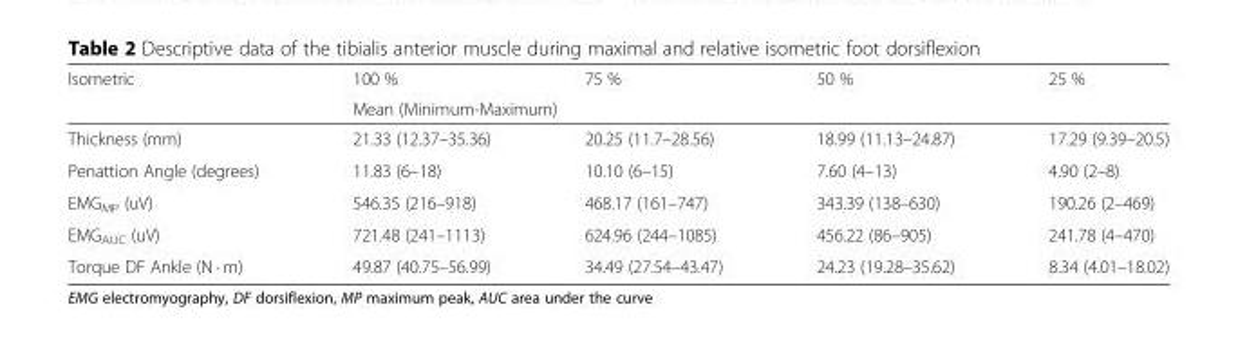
<table><thead><tr><td rowspan="2">Isometric</td><td>100 %</td><td>75 %</td><td>50 %</td><td>25 %</td></tr><tr><td colspan="4">Mean (Minimum-Maximum)</td></tr></thead><tbody><tr><td>Thickness (mm)</td><td>21.33 (12.37–35.36)</td><td>20.25 (11.7–28.56)</td><td>18.99 (11.13–24.87)</td><td>17.29 (9.39–20.5)</td></tr><tr><td>Penattion Angle (degrees)</td><td>11.83 (6–18)</td><td>10.10 (6–15)</td><td>7.60 (4–13)</td><td>4.90 (2–8)</td></tr><tr><td>EMG<sub>MP</sub> (uV)</td><td>546.35 (216–918)</td><td>468.17 (161–747)</td><td>343.39 (138–630)</td><td>190.26 (2–469)</td></tr><tr><td>EMG<sub>AUC</sub> (uV)</td><td>721.48 (241–1113)</td><td>624.96 (244–1085)</td><td>456.22 (86–905)</td><td>241.78 (4–470)</td></tr><tr><td>Torque DF Ankle (N · m)</td><td>49.87 (40.75–56.99)</td><td>34.49 (27.54–43.47)</td><td>24.23 (19.28–35.62)</td><td>8.34 (4.01–18.02)</td></tr></tbody></table>